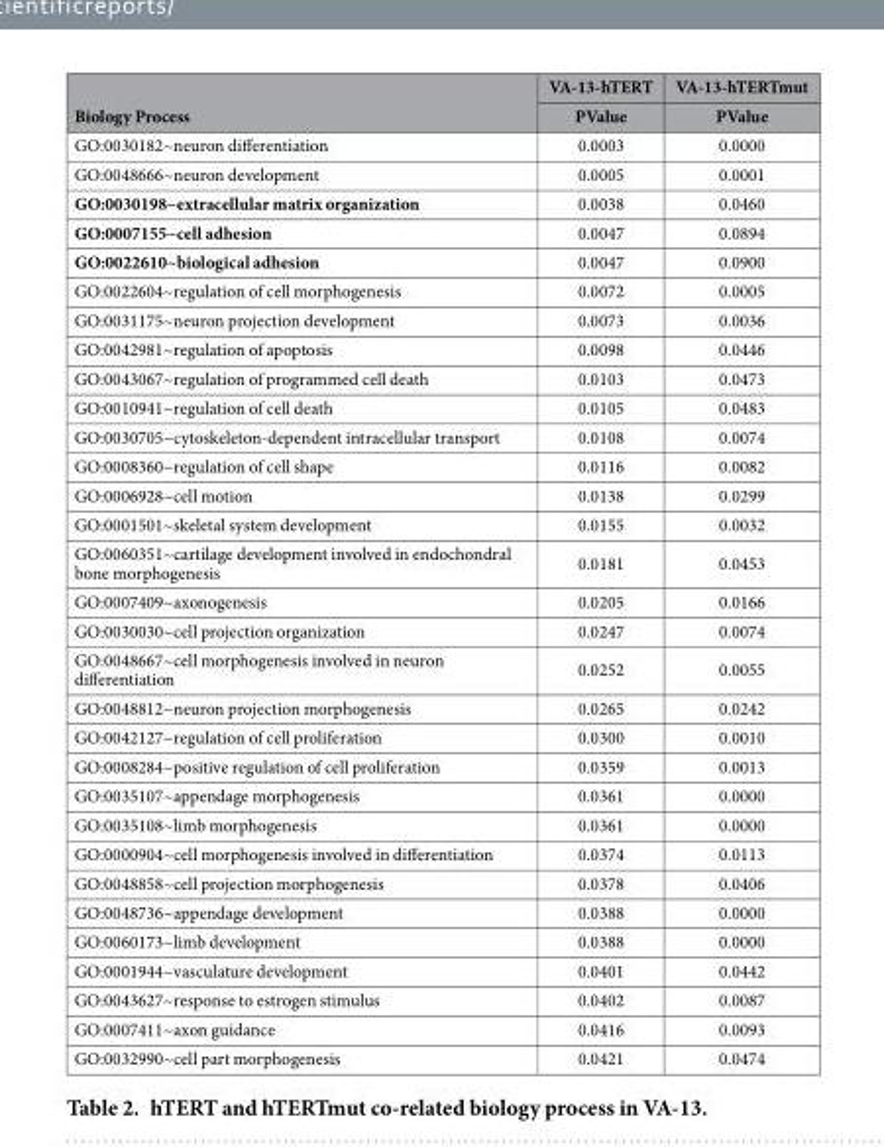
<table><thead><tr><td rowspan="2">Biology Process</td><td rowspan="2">VA-13-hTERT PValue</td><td rowspan="2">VA-13-hTERTmut PValue</td></tr><tr></tr></thead><tbody><tr><td>GO:0030182~neuron differentiation</td><td>0.0003</td><td>0.0000</td></tr><tr><td>GO:0048666~neuron development</td><td>0.0005</td><td>0.0001</td></tr><tr><td>GO:0030198~extracellular matrix organization</td><td>0.0038</td><td>0.0460</td></tr><tr><td>GO:0007155~cell adhesion</td><td>0.0047</td><td>0.0894</td></tr><tr><td>GO:0022610~biological adhesion</td><td>0.0047</td><td>0.0900</td></tr><tr><td>GO:0022604~regulation of cell morphogenesis</td><td>0.0072</td><td>0.0005</td></tr><tr><td>GO:0031175~neuron projection development</td><td>0.0073</td><td>0.0036</td></tr><tr><td>GO:0042981~regulation of apoptosis</td><td>0.0098</td><td>0.0446</td></tr><tr><td>GO:0043067~regulation of programmed cell death</td><td>0.0103</td><td>0.0473</td></tr><tr><td>GO:0010941~regulation of cell death</td><td>0.0105</td><td>0.0483</td></tr><tr><td>GO:0030705~cytoskeleton-dependent intracellular transport</td><td>0.0108</td><td>0.0074</td></tr><tr><td>GO:0008360~regulation of cell shape</td><td>0.0116</td><td>0.0082</td></tr><tr><td>GO:0006928~cell motion</td><td>0.0138</td><td>0.0299</td></tr><tr><td>GO:0001501~skeletal system development</td><td>0.0155</td><td>0.0032</td></tr><tr><td>GO:0060351~cartilage development involved in endochondral bone morphogenesis</td><td>0.0181</td><td>0.0453</td></tr><tr><td>GO:0007409~axonogenesis</td><td>0.0205</td><td>0.0166</td></tr><tr><td>GO:0030030~cell projection organization</td><td>0.0247</td><td>0.0074</td></tr><tr><td>GO:0048667~cell morphogenesis involved in neuron differentiation</td><td>0.0252</td><td>0.0055</td></tr><tr><td>GO:0048812~neuron projection morphogenesis</td><td>0.0265</td><td>0.0242</td></tr><tr><td>GO:0042127~regulation of cell proliferation</td><td>0.0300</td><td>0.0010</td></tr><tr><td>GO:0008284~positive regulation of cell proliferation</td><td>0.0359</td><td>0.0013</td></tr><tr><td>GO:0035107~appendage morphogenesis</td><td>0.0361</td><td>0.0000</td></tr><tr><td>GO:0035108~limb morphogenesis</td><td>0.0361</td><td>0.0000</td></tr><tr><td>GO:0000904~cell morphogenesis involved in differentiation</td><td>0.0374</td><td>0.0113</td></tr><tr><td>GO:0048858~cell projection morphogenesis</td><td>0.0378</td><td>0.0406</td></tr><tr><td>GO:0048736~appendage development</td><td>0.0388</td><td>0.0000</td></tr><tr><td>GO:0060173~limb development</td><td>0.0388</td><td>0.0000</td></tr><tr><td>GO:0001944~vasculature development</td><td>0.0401</td><td>0.0442</td></tr><tr><td>GO:0043627~response to estrogen stimulus</td><td>0.0402</td><td>0.0087</td></tr><tr><td>GO:0007411~axon guidance</td><td>0.0416</td><td>0.0093</td></tr><tr><td>GO:0032990~cell part morphogenesis</td><td>0.0421</td><td>0.0474</td></tr></tbody></table>